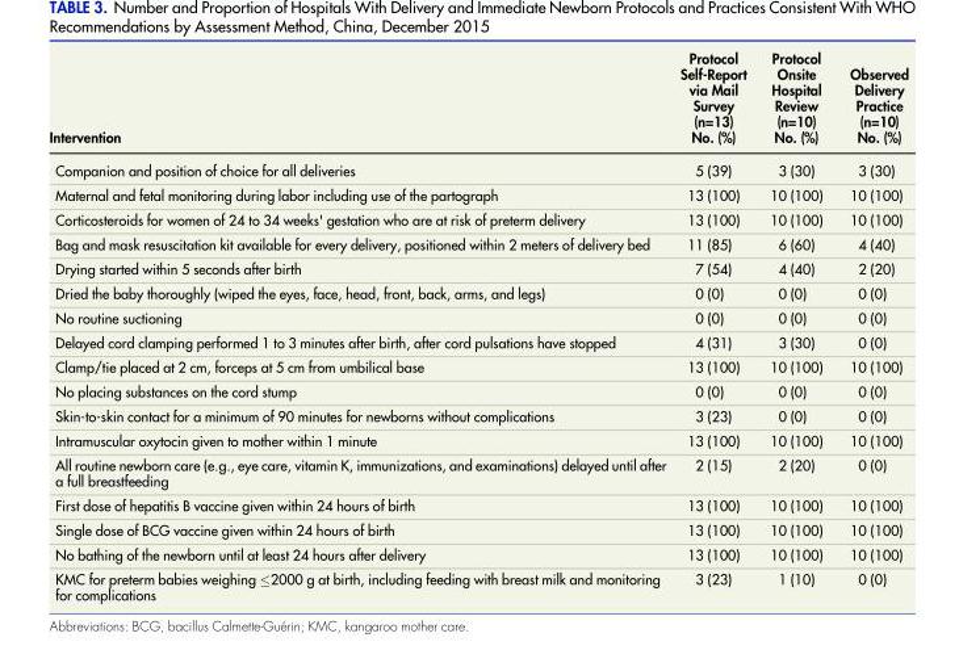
<table><thead><tr><td>Intervention</td><td>Protocol Self-Report via Mail Survey (n=13) No. (%)</td><td>Protocol Onsite Hospital Review (n=10) No. (%)</td><td>Observed Delivery Practice (n=10) No. (%)</td></tr></thead><tbody><tr><td>Companion and position of choice for all deliveries</td><td>5 (39)</td><td>3 (30)</td><td>3 (30)</td></tr><tr><td>Maternal and fetal monitoring during labor including use of the partograph</td><td>13 (100)</td><td>10 (100)</td><td>10 (100)</td></tr><tr><td>Corticosteroids for women of 24 to 34 weeks&#x27; gestation who are at risk of preterm delivery</td><td>13 (100)</td><td>10 (100)</td><td>10 (100)</td></tr><tr><td>Bag and mask resuscitation kit available for every delivery, positioned within 2 meters of delivery bed</td><td>11 (85)</td><td>6 (60)</td><td>4 (40)</td></tr><tr><td>Drying started within 5 seconds after birth</td><td>7 (54)</td><td>4 (40)</td><td>2 (20)</td></tr><tr><td>Dried the baby thoroughly (wiped the eyes, face, head, front, back, arms, and legs)</td><td>0 (0)</td><td>0 (0)</td><td>0 (0)</td></tr><tr><td>No routine suctioning</td><td>0 (0)</td><td>0 (0)</td><td>0 (0)</td></tr><tr><td>Delayed cord clamping performed 1 to 3 minutes after birth, after cord pulsations have stopped</td><td>4 (31)</td><td>3 (30)</td><td>0 (0)</td></tr><tr><td>Clamp/tie placed at 2 cm, forceps at 5 cm from umbilical base</td><td>13 (100)</td><td>10 (100)</td><td>10 (100)</td></tr><tr><td>No placing substances on the cord stump</td><td>0 (0)</td><td>0 (0)</td><td>0 (0)</td></tr><tr><td>Skin-to-skin contact for a minimum of 90 minutes for newborns without complications</td><td>3 (23)</td><td>0 (0)</td><td>0 (0)</td></tr><tr><td>Intramuscular oxytocin given to mother within 1 minute</td><td>13 (100)</td><td>10 (100)</td><td>10 (100)</td></tr><tr><td>All routine newborn care (e.g., eye care, vitamin K, immunizations, and examinations) delayed until after a full breastfeeding</td><td>2 (15)</td><td>2 (20)</td><td>0 (0)</td></tr><tr><td>First dose of hepatitis B vaccine given within 24 hours of birth</td><td>13 (100)</td><td>10 (100)</td><td>10 (100)</td></tr><tr><td>Single dose of BCG vaccine given within 24 hours of birth</td><td>13 (100)</td><td>10 (100)</td><td>10 (100)</td></tr><tr><td>No bathing of the newborn until at least 24 hours after delivery</td><td>13 (100)</td><td>10 (100)</td><td>10 (100)</td></tr><tr><td>KMC for preterm babies weighing ≤2000 g at birth, including feeding with breast milk and monitoring for complications</td><td>3 (23)</td><td>1 (10)</td><td>0 (0)</td></tr></tbody></table>